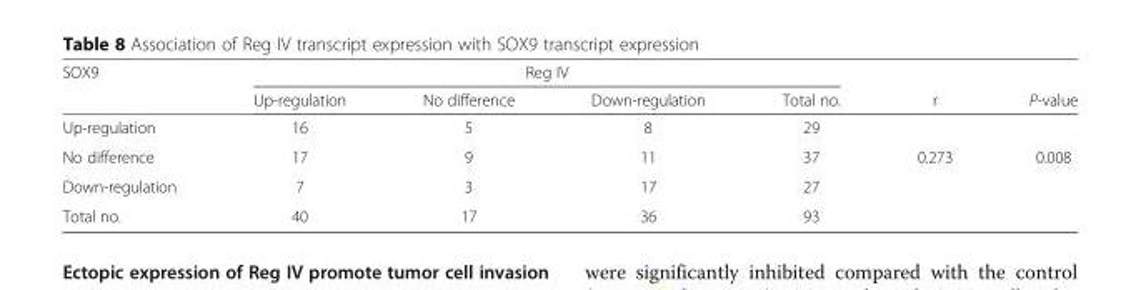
<table><thead><tr><td rowspan="2">SOX9</td><td colspan="4">Reg IV</td><td rowspan="2">r</td><td rowspan="2">P-value</td></tr><tr><td>Up-regulation</td><td>No difference</td><td>Down-regulation</td><td>Total no.</td></tr></thead><tbody><tr><td>Up-regulation</td><td>16</td><td>5</td><td>8</td><td>29</td><td></td><td></td></tr><tr><td>No difference</td><td>17</td><td>9</td><td>11</td><td>37</td><td>0.273</td><td>0.008</td></tr><tr><td>Down-regulation</td><td>7</td><td>3</td><td>17</td><td>27</td><td></td><td></td></tr><tr><td>Total no.</td><td>40</td><td>17</td><td>36</td><td>93</td><td></td><td></td></tr></tbody></table>